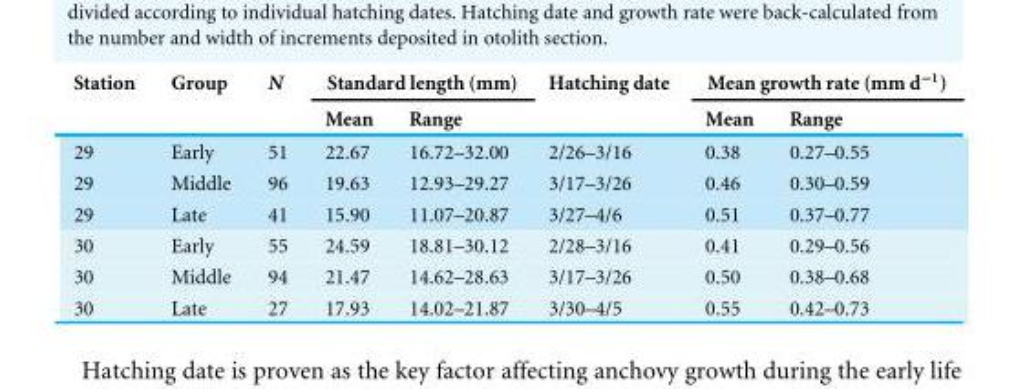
<table><thead><tr><td rowspan="2">Station</td><td rowspan="2">Group</td><td rowspan="2">N</td><td colspan="2">Standard length (mm)</td><td rowspan="2">Hatching date</td><td colspan="2">Mean growth rate (mm d<sup>−1</sup>)</td></tr><tr><td>Mean</td><td>Range</td><td>Mean</td><td>Range</td></tr></thead><tbody><tr><td>;29</td><td>Early</td><td>51</td><td>22.67</td><td>16.72–32.00</td><td>2/26–3/16</td><td>0.38</td><td>0.27–0.55</td></tr><tr><td>;29</td><td>Middle</td><td>96</td><td>19.63</td><td>12.93–29.27</td><td>3/17–3/26</td><td>0.46</td><td>0.30–0.59</td></tr><tr><td>;29</td><td>Late</td><td>41</td><td>15.90</td><td>11.07–20.87</td><td>3/27–4/6</td><td>0.51</td><td>0.37–0.77</td></tr><tr><td>;30</td><td>Early</td><td>55</td><td>24.59</td><td>18.81–30.12</td><td>2/28–3/16</td><td>0.41</td><td>0.29–0.56</td></tr><tr><td>;30</td><td>Middle</td><td>94</td><td>21.47</td><td>14.62–28.63</td><td>3/17–3/26</td><td>0.50</td><td>0.38–0.68</td></tr><tr><td>;30</td><td>Late</td><td>27</td><td>17.93</td><td>14.02–21.87</td><td>3/30–4/5</td><td>0.55</td><td>0.42–0.73</td></tr></tbody></table>